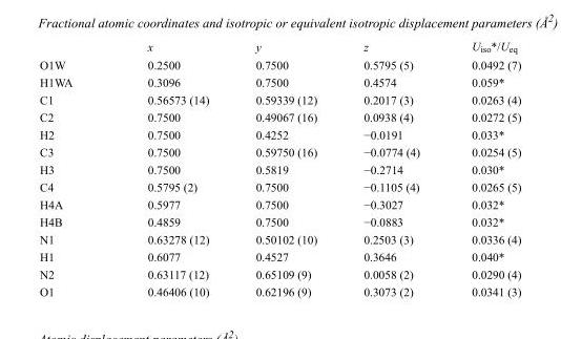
<table><thead><tr><td></td><td>x</td><td>y</td><td>z</td><td>U<sub>iso</sub>*/U<sub>eq</sub></td></tr></thead><tbody><tr><td>O1W</td><td>0.2500</td><td>0.7500</td><td>0.5795 (5)</td><td>0.0492 (7)</td></tr><tr><td>H1WA</td><td>0.3096</td><td>0.7500</td><td>0.4574</td><td>0.059*</td></tr><tr><td>C1</td><td>0.56573 (14)</td><td>0.59339 (12)</td><td>0.2017 (3)</td><td>0.0263 (4)</td></tr><tr><td>C2</td><td>0.7500</td><td>0.49067 (16)</td><td>0.0938 (4)</td><td>0.0272 (5)</td></tr><tr><td>H2</td><td>0.7500</td><td>0.4252</td><td>−0.0191</td><td>0.033*</td></tr><tr><td>C3</td><td>0.7500</td><td>0.59750 (16)</td><td>−0.0774 (4)</td><td>0.0254 (5)</td></tr><tr><td>H3</td><td>0.7500</td><td>0.5819</td><td>−0.2714</td><td>0.030*</td></tr><tr><td>C4</td><td>0.5795 (2)</td><td>0.7500</td><td>−0.1105 (4)</td><td>0.0265 (5)</td></tr><tr><td>H4A</td><td>0.5977</td><td>0.7500</td><td>−0.3027</td><td>0.032*</td></tr><tr><td>H4B</td><td>0.4859</td><td>0.7500</td><td>−0.0883</td><td>0.032*</td></tr><tr><td>N1</td><td>0.63278 (12)</td><td>0.50102 (10)</td><td>0.2503 (3)</td><td>0.0336 (4)</td></tr><tr><td>H1</td><td>0.6077</td><td>0.4527</td><td>0.3646</td><td>0.040*</td></tr><tr><td>N2</td><td>0.63117 (12)</td><td>0.65109 (9)</td><td>0.0058 (2)</td><td>0.0290 (4)</td></tr><tr><td>O1</td><td>0.46406 (10)</td><td>0.62196 (9)</td><td>0.3073 (2)</td><td>0.0341 (3)</td></tr></tbody></table>